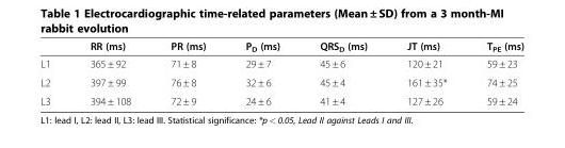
<table><thead><tr><td></td><td>RR (ms)</td><td>PR (ms)</td><td>P<sub>D</sub> (ms)</td><td>QRS<sub>D</sub> (ms)</td><td>JT (ms)</td><td>T<sub>PE</sub> (ms)</td></tr></thead><tbody><tr><td>L1</td><td>365 ± 92</td><td>71 ± 8</td><td>29 ± 7</td><td>45 ± 6</td><td>120 ± 21</td><td>59 ± 23</td></tr><tr><td>L2</td><td>397 ± 99</td><td>76 ± 8</td><td>32 ± 6</td><td>45 ± 4</td><td>161 ± 35*</td><td>74 ± 25</td></tr><tr><td>L3</td><td>394 ± 108</td><td>72 ± 9</td><td>24 ± 6</td><td>41 ± 4</td><td>127 ± 26</td><td>59 ± 24</td></tr></tbody></table>